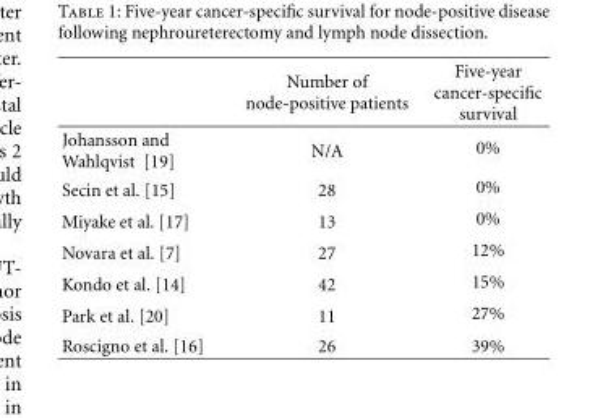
<table><thead><tr><td></td><td>Number of node-positive patients</td><td>Five-year cancer-specific survival</td></tr></thead><tbody><tr><td>Johansson and Wahlqvist [19]</td><td>N/A</td><td>0%</td></tr><tr><td>Secin et al. [15]</td><td>28</td><td>0%</td></tr><tr><td>Miyake et al. [17]</td><td>13</td><td>0%</td></tr><tr><td>Novara et al. [7]</td><td>27</td><td>12%</td></tr><tr><td>Kondo et al. [14]</td><td>42</td><td>15%</td></tr><tr><td>Park et al. [20]</td><td>11</td><td>27%</td></tr><tr><td>Roscigno et al. [16]</td><td>26</td><td>39%</td></tr></tbody></table>